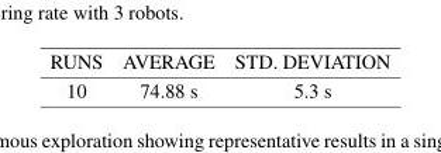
<table><thead><tr><td>RUNS</td><td>AVERAGE</td><td>STD. DEVIATION</td></tr></thead><tbody><tr><td>10</td><td>74.88 s</td><td>5.3 s</td></tr></tbody></table>